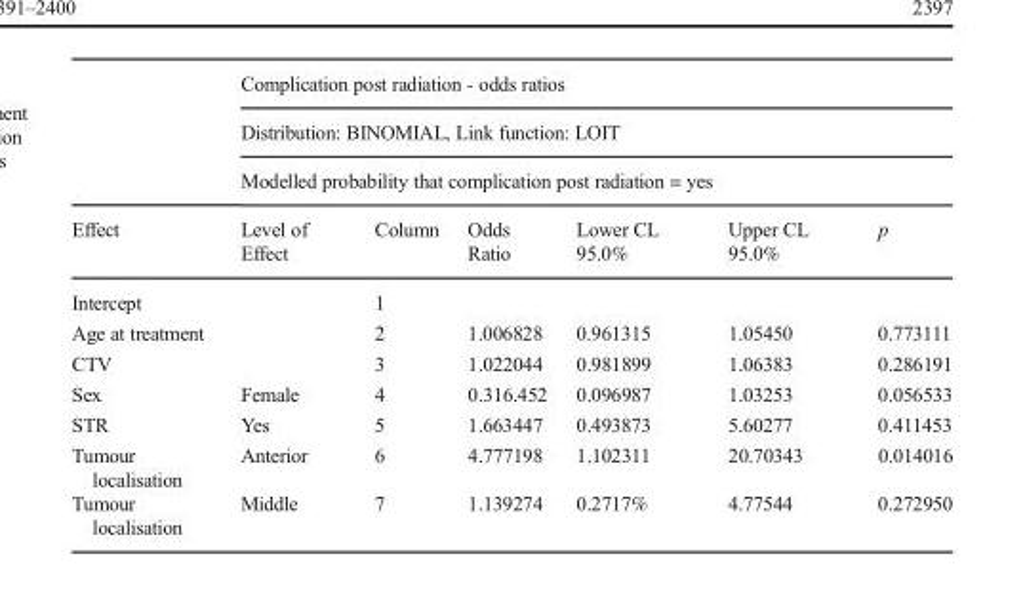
<table><thead><tr><td rowspan="4">Effect</td><td rowspan="3" colspan="6">Complication post radiation - odds ratios Distribution: BINOMIAL, Link function: LOIT Modelled probability that complication post radiation = yes</td></tr><tr></tr><tr></tr><tr><td>Level of Effect</td><td>Column</td><td>Odds Ratio</td><td>Lower CL 95.0%</td><td>Upper CL 95.0%</td><td>p</td></tr></thead><tbody><tr><td>Intercept</td><td></td><td>1</td><td></td><td></td><td></td><td></td></tr><tr><td>Age at treatment</td><td></td><td>2</td><td>1.006828</td><td>0.961315</td><td>1.05450</td><td>0.773111</td></tr><tr><td>CTV</td><td></td><td>3</td><td>1.022044</td><td>0.981899</td><td>1.06383</td><td>0.286191</td></tr><tr><td>Sex</td><td>Female</td><td>4</td><td>0.316.452</td><td>0.096987</td><td>1.03253</td><td>0.056533</td></tr><tr><td>STR</td><td>Yes</td><td>5</td><td>1.663447</td><td>0.493873</td><td>5.60277</td><td>0.411453</td></tr><tr><td>Tumour localisation</td><td>Anterior</td><td>6</td><td>4.777198</td><td>1.102311</td><td>20.70343</td><td>0.014016</td></tr><tr><td>Tumour localisation</td><td>Middle</td><td>7</td><td>1.139274</td><td>0.2717%</td><td>4.77544</td><td>0.272950</td></tr></tbody></table>